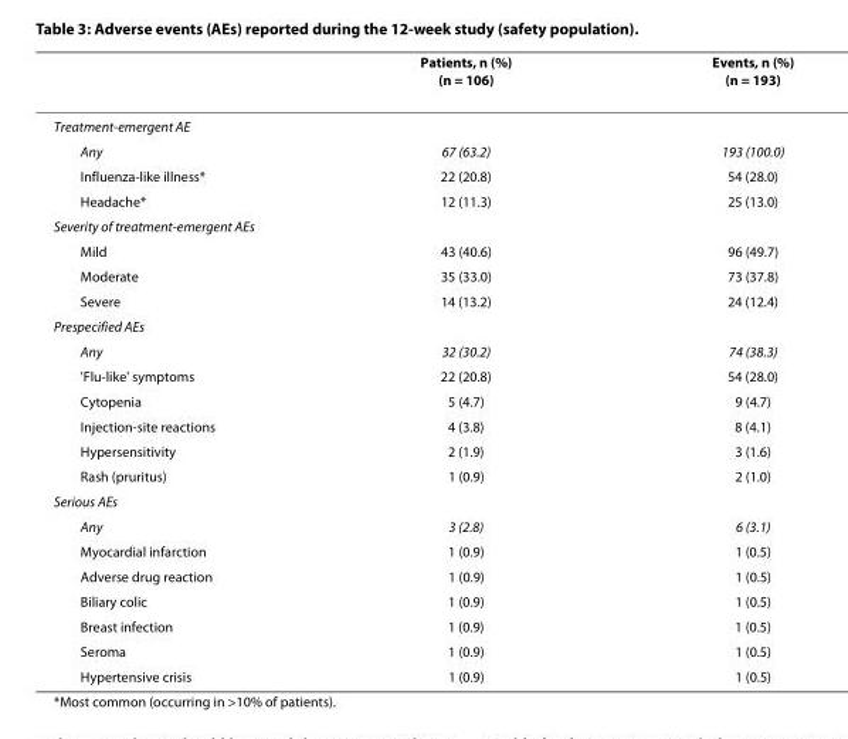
<table><thead><tr><td></td><td>Patients, n (%) (n = 106)</td><td>Events, n (%) (n = 193)</td></tr></thead><tbody><tr><td colspan="3">Treatment-emergent AE</td></tr><tr><td>Any</td><td>67 (63.2)</td><td>193 (100.0)</td></tr><tr><td>Influenza-like illness*</td><td>22 (20.8)</td><td>54 (28.0)</td></tr><tr><td>Headache*</td><td>12 (11.3)</td><td>25 (13.0)</td></tr><tr><td colspan="3">Severity of treatment-emergent AEs</td></tr><tr><td>Mild</td><td>43 (40.6)</td><td>96 (49.7)</td></tr><tr><td>Moderate</td><td>35 (33.0)</td><td>73 (37.8)</td></tr><tr><td>Severe</td><td>14 (13.2)</td><td>24 (12.4)</td></tr><tr><td colspan="3">Prespecified AEs</td></tr><tr><td>Any</td><td>32 (30.2)</td><td>74 (38.3)</td></tr><tr><td>&#x27;Flu-like&#x27; symptoms</td><td>22 (20.8)</td><td>54 (28.0)</td></tr><tr><td>Cytopenia</td><td>5 (4.7)</td><td>9 (4.7)</td></tr><tr><td>Injection-site reactions</td><td>4 (3.8)</td><td>8 (4.1)</td></tr><tr><td>Hypersensitivity</td><td>2 (1.9)</td><td>3 (1.6)</td></tr><tr><td>Rash (pruritus)</td><td>1 (0.9)</td><td>2 (1.0)</td></tr><tr><td colspan="3">Serious AEs</td></tr><tr><td>Any</td><td>3 (2.8)</td><td>6 (3.1)</td></tr><tr><td>Myocardial infarction</td><td>1 (0.9)</td><td>1 (0.5)</td></tr><tr><td>Adverse drug reaction</td><td>1 (0.9)</td><td>1 (0.5)</td></tr><tr><td>Biliary colic</td><td>1 (0.9)</td><td>1 (0.5)</td></tr><tr><td>Breast infection</td><td>1 (0.9)</td><td>1 (0.5)</td></tr><tr><td>Seroma</td><td>1 (0.9)</td><td>1 (0.5)</td></tr><tr><td>Hypertensive crisis</td><td>1 (0.9)</td><td>1 (0.5)</td></tr></tbody></table>